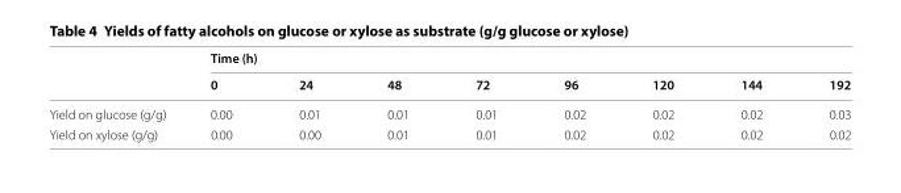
<table><thead><tr><td rowspan="2"></td><td colspan="8">Time (h)</td></tr><tr><td>0</td><td>24</td><td>48</td><td>72</td><td>96</td><td>120</td><td>144</td><td>192</td></tr></thead><tbody><tr><td>Yield on glucose (g/g)</td><td>0.00</td><td>0.01</td><td>0.01</td><td>0.01</td><td>0.02</td><td>0.02</td><td>0.02</td><td>0.03</td></tr><tr><td>Yield on xylose (g/g)</td><td>0.00</td><td>0.00</td><td>0.01</td><td>0.01</td><td>0.02</td><td>0.02</td><td>0.02</td><td>0.02</td></tr></tbody></table>